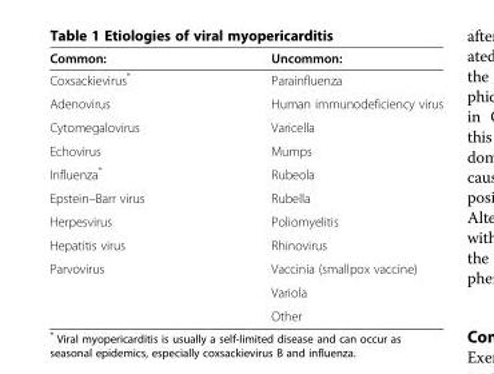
<table><thead><tr><td>Common:</td><td>Uncommon:</td></tr></thead><tbody><tr><td>Coxsackievirus*</td><td>Parainfluenza</td></tr><tr><td>Adenovirus</td><td>Human immunodeficiency virus</td></tr><tr><td>Cytomegalovirus</td><td>Varicella</td></tr><tr><td>Echovirus</td><td>Mumps</td></tr><tr><td>Influenza*</td><td>Rubeola</td></tr><tr><td>Epstein–Barr virus</td><td>Rubella</td></tr><tr><td>Herpesvirus</td><td>Poliomyelitis</td></tr><tr><td>Hepatitis virus</td><td>Rhinovirus</td></tr><tr><td rowspan="3">Parvovirus</td><td>Vaccinia (smallpox vaccine)</td></tr><tr><td>Variola</td></tr><tr><td>Other</td></tr></tbody></table>